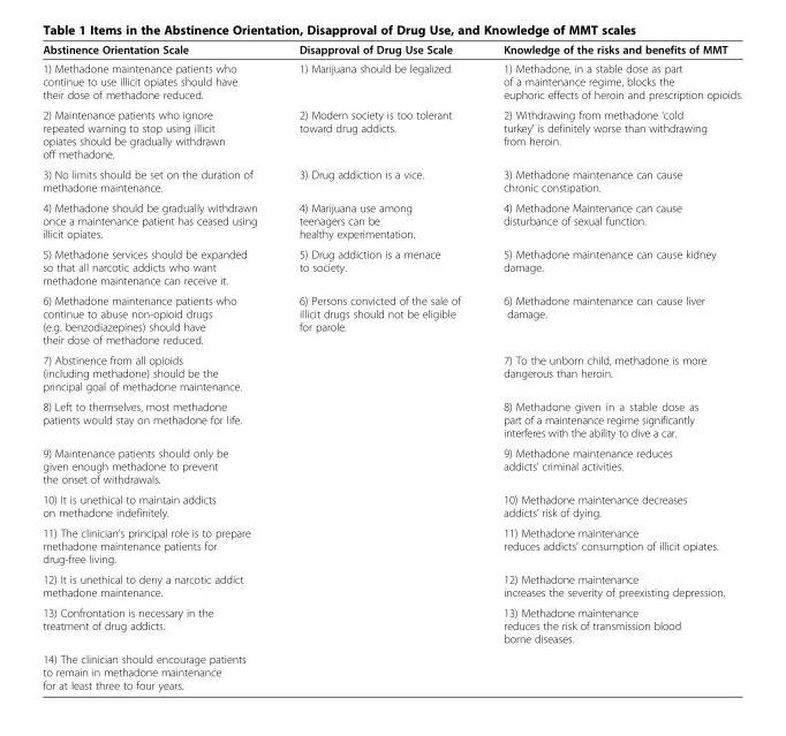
<table><thead><tr><td>Abstinence Orientation Scale</td><td>Disapproval of Drug Use Scale</td><td>Knowledge of the risks and benefits of MMT</td></tr></thead><tbody><tr><td>1) Methadone maintenance patients who continue to use illicit opiates should have their dose of methadone reduced.</td><td>1) Marijuana should be legalized.</td><td>1) Methadone, in a stable dose as part of a maintenance regime, blocks the euphoric effects of heroin and prescription opioids.</td></tr><tr><td>2) Maintenance patients who ignore repeated warning to stop using illicit opiates should be gradually withdrawn off methadone.</td><td>2) Modern society is too tolerant toward drug addicts.</td><td>2) Withdrawing from methadone ‘cold turkey’ is definitely worse than withdrawing from heroin.</td></tr><tr><td>3) No limits should be set on the duration of methadone maintenance.</td><td>3) Drug addiction is a vice.</td><td>3) Methadone maintenance can cause chronic constipation.</td></tr><tr><td>4) Methadone should be gradually withdrawn once a maintenance patient has ceased using illicit opiates.</td><td>4) Marijuana use among teenagers can be healthy experimentation.</td><td>4) Methadone Maintenance can cause disturbance of sexual function.</td></tr><tr><td>5) Methadone services should be expanded so that all narcotic addicts who want methadone maintenance can receive it.</td><td>5) Drug addiction is a menace to society.</td><td>5) Methadone maintenance can cause kidney damage.</td></tr><tr><td>6) Methadone maintenance patients who continue to abuse non-opioid drugs (e.g. benzodiazepines) should have their dose of methadone reduced.</td><td>6) Persons convicted of the sale of illicit drugs should not be eligible for parole.</td><td>6) Methadone maintenance can cause liver damage.</td></tr><tr><td>7) Abstinence from all opioids (including methadone) should be the principal goal of methadone maintenance.</td><td></td><td>7) To the unborn child, methadone is more dangerous than heroin.</td></tr><tr><td>8) Left to themselves, most methadone patients would stay on methadone for life.</td><td></td><td>8) Methadone given in a stable dose as part of a maintenance regime significantly interferes with the ability to dive a car.</td></tr><tr><td>9) Maintenance patients should only be given enough methadone to prevent the onset of withdrawals.</td><td></td><td>9) Methadone maintenance reduces addicts’ criminal activities.</td></tr><tr><td>10) It is unethical to maintain addicts on methadone indefinitely.</td><td></td><td>10) Methadone maintenance decreases addicts’ risk of dying.</td></tr><tr><td>11) The clinician’s principal role is to prepare methadone maintenance patients for drug-free living.</td><td></td><td>11) Methadone maintenance reduces addicts’ consumption of illicit opiates.</td></tr><tr><td>12) It is unethical to deny a narcotic addict methadone maintenance.</td><td></td><td>12) Methadone maintenance increases the severity of preexisting depression.</td></tr><tr><td>13) Confrontation is necessary in the treatment of drug addicts.</td><td></td><td>13) Methadone maintenance reduces the risk of transmission blood borne diseases.</td></tr><tr><td>14) The clinician should encourage patients to remain in methadone maintenance for at least three to four years.</td><td></td><td></td></tr></tbody></table>